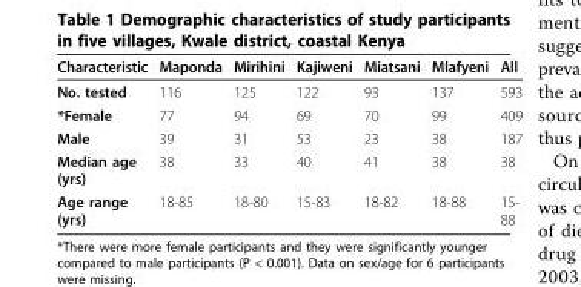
<table><thead><tr><td>Characteristic</td><td>Maponda</td><td>Mirihini</td><td>Kajiweni</td><td>Miatsani</td><td>Mlafyeni</td><td>All</td></tr></thead><tbody><tr><td>No. tested</td><td>116</td><td>125</td><td>122</td><td>93</td><td>137</td><td>593</td></tr><tr><td>*Female</td><td>77</td><td>94</td><td>69</td><td>70</td><td>99</td><td>409</td></tr><tr><td>Male</td><td>39</td><td>31</td><td>53</td><td>23</td><td>38</td><td>187</td></tr><tr><td>Median age (yrs)</td><td>38</td><td>33</td><td>40</td><td>41</td><td>38</td><td>38</td></tr><tr><td>Age range (yrs)</td><td>18-85</td><td>18-80</td><td>15-83</td><td>18-82</td><td>18-88</td><td>15- 88</td></tr></tbody></table>